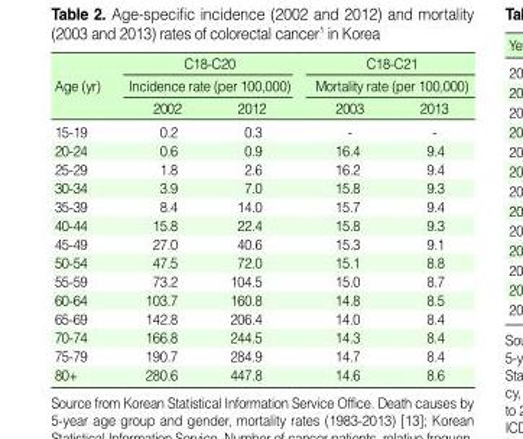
<table><thead><tr><td rowspan="3">Age (yr)</td><td rowspan="2" colspan="2">C18-C20 Incidence rate (per 100,000)</td><td rowspan="2" colspan="2">C18-C21 Mortality rate (per 100,000)</td></tr><tr></tr><tr><td>2002</td><td>2012</td><td>2003</td><td>2013</td></tr></thead><tbody><tr><td>15-19</td><td>0.2</td><td>0.3</td><td>-</td><td>-</td></tr><tr><td>20-24</td><td>0.6</td><td>0.9</td><td>16.4</td><td>9.4</td></tr><tr><td>25-29</td><td>1.8</td><td>2.6</td><td>16.2</td><td>9.4</td></tr><tr><td>30-34</td><td>3.9</td><td>7.0</td><td>15.8</td><td>9.3</td></tr><tr><td>35-39</td><td>8.4</td><td>14.0</td><td>15.7</td><td>9.4</td></tr><tr><td>40-44</td><td>15.8</td><td>22.4</td><td>15.8</td><td>9.3</td></tr><tr><td>45-49</td><td>27.0</td><td>40.6</td><td>15.3</td><td>9.1</td></tr><tr><td>50-54</td><td>47.5</td><td>72.0</td><td>15.1</td><td>8.8</td></tr><tr><td>55-59</td><td>73.2</td><td>104.5</td><td>15.0</td><td>8.7</td></tr><tr><td>60-64</td><td>103.7</td><td>160.8</td><td>14.8</td><td>8.5</td></tr><tr><td>65-69</td><td>142.8</td><td>206.4</td><td>14.0</td><td>8.4</td></tr><tr><td>70-74</td><td>166.8</td><td>244.5</td><td>14.3</td><td>8.4</td></tr><tr><td>75-79</td><td>190.7</td><td>284.9</td><td>14.7</td><td>8.4</td></tr><tr><td>80+</td><td>280.6</td><td>447.8</td><td>14.6</td><td>8.6</td></tr></tbody></table>